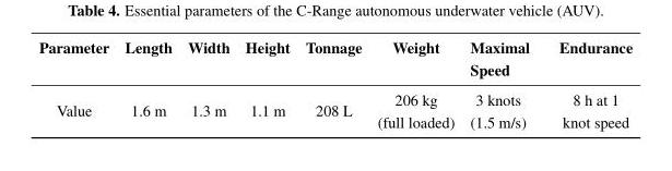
<table><thead><tr><td>Parameter</td><td>Length</td><td>Width</td><td>Height</td><td>Tonnage</td><td>Weight</td><td>Maximal Speed</td><td>Endurance</td></tr></thead><tbody><tr><td>Value</td><td>1.6 m</td><td>1.3 m</td><td>1.1 m</td><td>208 L</td><td>206 kg (full loaded)</td><td>3 knots (1.5 m/s)</td><td>8 h at 1 knot speed</td></tr></tbody></table>